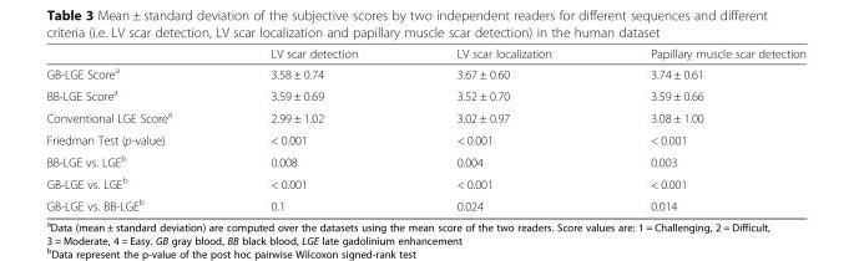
<table><thead><tr><td></td><td>LV scar detection</td><td>LV scar localization</td><td>Papillary muscle scar detection</td></tr></thead><tbody><tr><td>GB-LGE Score<sup>a</sup></td><td>3.58 ± 0.74</td><td>3.67 ± 0.60</td><td>3.74 ± 0.61</td></tr><tr><td>BB-LGE Score<sup>a</sup></td><td>3.59 ± 0.69</td><td>3.52 ± 0.70</td><td>3.59 ± 0.66</td></tr><tr><td>Conventional LGE Score<sup>a</sup></td><td>2.99 ± 1.02</td><td>3.02 ± 0.97</td><td>3.08 ± 1.00</td></tr><tr><td>Friedman Test (p-value)</td><td>&lt; 0.001</td><td>&lt; 0.001</td><td>&lt; 0.001</td></tr><tr><td>BB-LGE vs. LGE<sup>b</sup></td><td>0.008</td><td>0.004</td><td>0.003</td></tr><tr><td>GB-LGE vs. LGE<sup>b</sup></td><td>&lt; 0.001</td><td>&lt; 0.001</td><td>&lt; 0.001</td></tr><tr><td>GB-LGE vs. BB-LGE<sup>b</sup></td><td>0.1</td><td>0.024</td><td>0.014</td></tr></tbody></table>